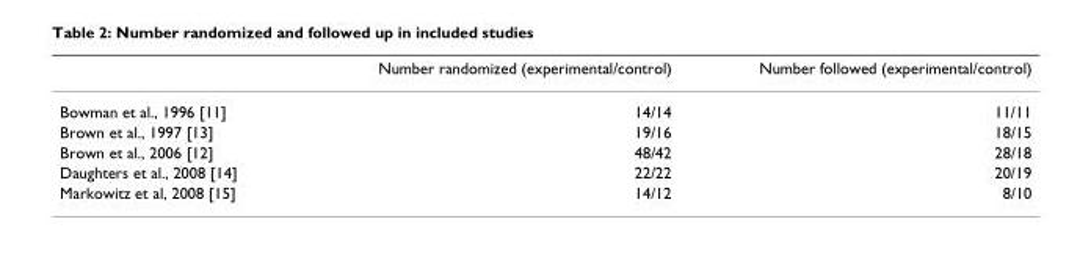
<table><thead><tr><td></td><td>Number randomized (experimental/control)</td><td>Number followed (experimental/control)</td></tr></thead><tbody><tr><td>Bowman et al., 1996 [11]</td><td>14/14</td><td>11/11</td></tr><tr><td>Brown et al., 1997 [13]</td><td>19/16</td><td>18/15</td></tr><tr><td>Brown et al., 2006 [12]</td><td>48/42</td><td>28/18</td></tr><tr><td>Daughters et al., 2008 [14]</td><td>22/22</td><td>20/19</td></tr><tr><td>Markowitz et al, 2008 [15]</td><td>14/12</td><td>8/10</td></tr></tbody></table>